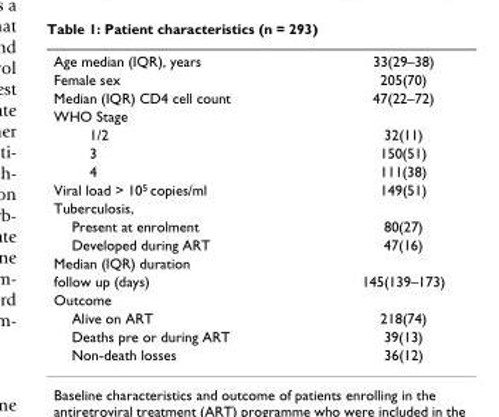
<table><tbody><tr><td>Age median (IQR), years</td><td>33(29–38)</td></tr><tr><td>Female sex</td><td>205(70)</td></tr><tr><td>Median (IQR) CD4 cell count</td><td>47(22–72)</td></tr><tr><td colspan="2">WHO Stage</td></tr><tr><td>1/2</td><td>32(11)</td></tr><tr><td>3</td><td>150(51)</td></tr><tr><td>4</td><td>111(38)</td></tr><tr><td>Viral load &gt; 10<sup>5</sup> copies/ml</td><td>149(51)</td></tr><tr><td colspan="2">Tuberculosis,</td></tr><tr><td>Present at enrolment</td><td>80(27)</td></tr><tr><td>Developed during ART</td><td>47(16)</td></tr><tr><td colspan="2">Median (IQR) duration</td></tr><tr><td>follow up (days)</td><td>145(139–173)</td></tr><tr><td colspan="2">Outcome</td></tr><tr><td>Alive on ART</td><td>218(74)</td></tr><tr><td>Deaths pre or during ART</td><td>39(13)</td></tr><tr><td>Non-death losses</td><td>36(12)</td></tr></tbody></table>